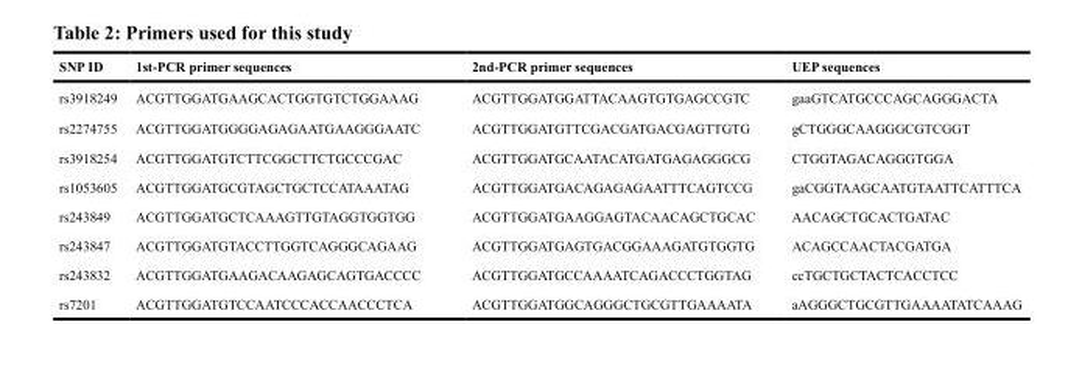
<table><thead><tr><td>SNP ID</td><td>1st-PCR primer sequences</td><td>2nd-PCR primer sequences</td><td>UEP sequences</td></tr></thead><tbody><tr><td>rs3918249</td><td>ACGTTGGATGAAGCACTGGTGTCTGGAAAG</td><td>ACGTTGGATGGATTACAAGTGTGAGCCGTC</td><td>gaaGTCATGCCCAGCAGGGACTA</td></tr><tr><td>rs2274755</td><td>ACGTTGGATGGGGAGAGAATGAAGGGAATC</td><td>ACGTTGGATGTTCGACGATGACGAGTTGTG</td><td>gCTGGGCAAGGGCGTCGGT</td></tr><tr><td>rs3918254</td><td>ACGTTGGATGTCTTCGGCTTCTGCCCGAC</td><td>ACGTTGGATGCAATACATGATGAGAGGGCG</td><td>CTGGTAGACAGGGTGGA</td></tr><tr><td>rs1053605</td><td>ACGTTGGATGCGTAGCTGCTCCATAAATAG</td><td>ACGTTGGATGACAGAGAGAATTTCAGTCCG</td><td>gaCGGTAAGCAATGTAATTCATTTCA</td></tr><tr><td>rs243849</td><td>ACGTTGGATGCTCAAAGTTGTAGGTGGTGG</td><td>ACGTTGGATGAAGGAGTACAACAGCTGCAC</td><td>AACAGCTGCACTGATAC</td></tr><tr><td>rs243847</td><td>ACGTTGGATGTACCTTGGTCAGGGCAGAAG</td><td>ACGTTGGATGAGTGACGGAAAGATGTGGTG</td><td>ACAGCCAACTACGATGA</td></tr><tr><td>rs243832</td><td>ACGTTGGATGAAGACAAGAGCAGTGACCCC</td><td>ACGTTGGATGCCAAAATCAGACCCTGGTAG</td><td>ccTGCTGCTACTCACCTCC</td></tr><tr><td>rs7201</td><td>ACGTTGGATGTCCAATCCCACCAACCCTCA</td><td>ACGTTGGATGGCAGGGCTGCGTTGAAAATA</td><td>aAGGGCTGCGTTGAAAATATCAAAG</td></tr></tbody></table>